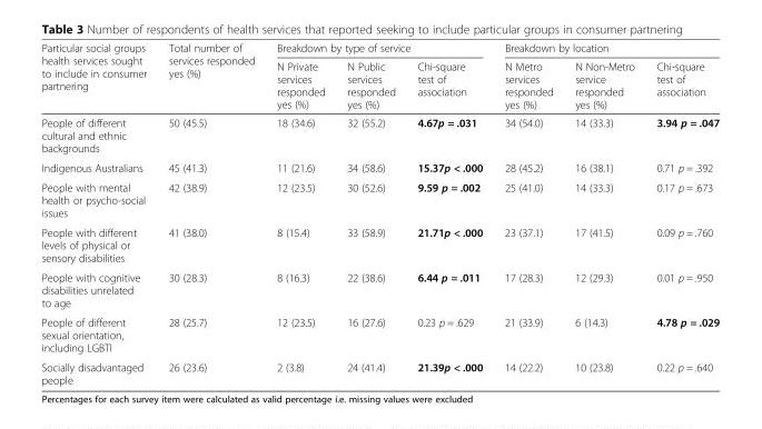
<table><thead><tr><td rowspan="2">Particular social groups health services sought to include in consumer partnering</td><td rowspan="2">Total number of services responded yes (%)</td><td colspan="3">Breakdown by type of service</td><td colspan="3">Breakdown by location</td></tr><tr><td>N Private services responded yes (%)</td><td>N Public services responded yes (%)</td><td>Chi-square test of association</td><td>N Metro services responded yes (%)</td><td>N Non-Metro service responded yes (%)</td><td>Chi-square test of association</td></tr></thead><tbody><tr><td>People of different cultural and ethnic backgrounds</td><td>50 (45.5)</td><td>18 (34.6)</td><td>32 (55.2)</td><td>4.67p = .031</td><td>34 (54.0)</td><td>14 (33.3)</td><td>3.94 p = .047</td></tr><tr><td>Indigenous Australians</td><td>45 (41.3)</td><td>11 (21.6)</td><td>34 (58.6)</td><td>15.37p &lt; .000</td><td>28 (45.2)</td><td>16 (38.1)</td><td>0.71 p = .392</td></tr><tr><td>People with mental health or psycho-social issues</td><td>42 (38.9)</td><td>12 (23.5)</td><td>30 (52.6)</td><td>9.59 p = .002</td><td>25 (41.0)</td><td>14 (33.3)</td><td>0.17 p = .673</td></tr><tr><td>People with different levels of physical or sensory disabilities</td><td>41 (38.0)</td><td>8 (15.4)</td><td>33 (58.9)</td><td>21.71p &lt; .000</td><td>23 (37.1)</td><td>17 (41.5)</td><td>0.09 p = .760</td></tr><tr><td>People with cognitive disabilities unrelated to age</td><td>30 (28.3)</td><td>8 (16.3)</td><td>22 (38.6)</td><td>6.44 p = .011</td><td>17 (28.3)</td><td>12 (29.3)</td><td>0.01 p = .950</td></tr><tr><td>People of different sexual orientation, including LGBTI</td><td>28 (25.7)</td><td>12 (23.5)</td><td>16 (27.6)</td><td>0.23 p = .629</td><td>21 (33.9)</td><td>6 (14.3)</td><td>4.78 p = .029</td></tr><tr><td>Socially disadvantaged people</td><td>26 (23.6)</td><td>2 (3.8)</td><td>24 (41.4)</td><td>21.39p &lt; .000</td><td>14 (22.2)</td><td>10 (23.8)</td><td>0.22 p = .640</td></tr></tbody></table>